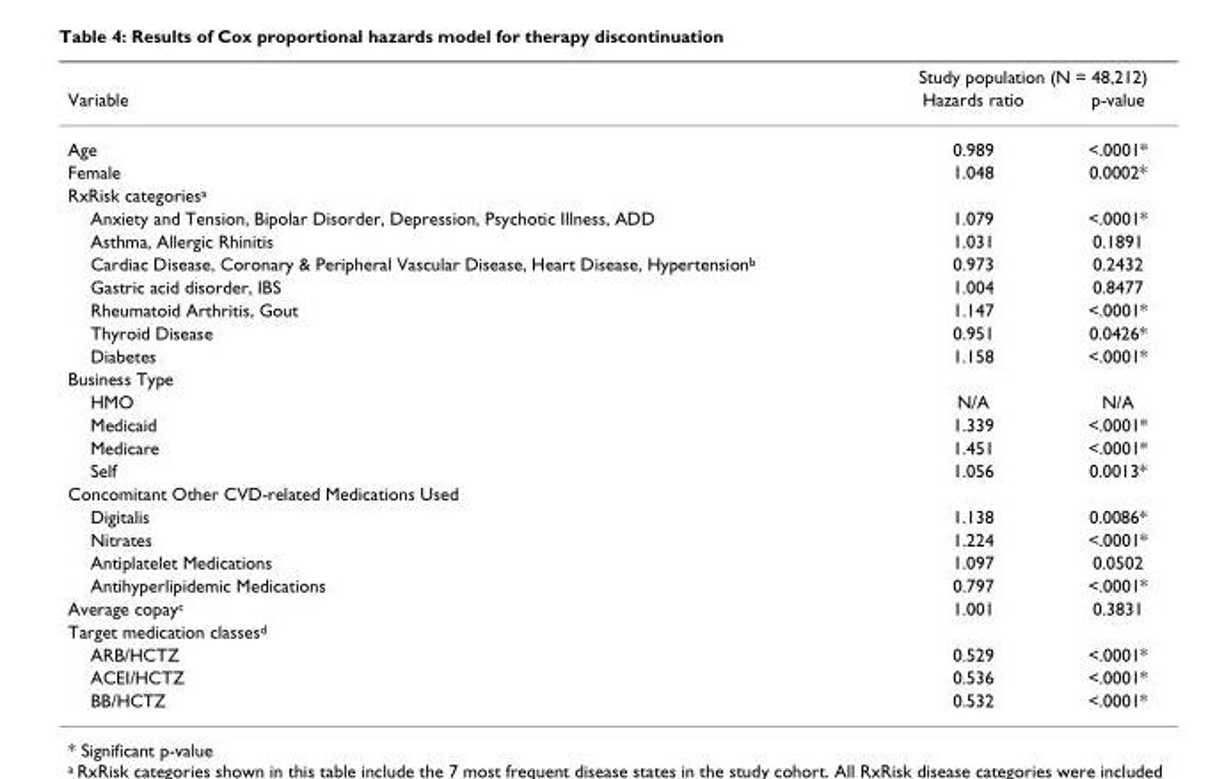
<table><thead><tr><td rowspan="2">Variable</td><td colspan="2">Study population (N = 48,212)</td></tr><tr><td>Hazards ratio</td><td>p-value</td></tr></thead><tbody><tr><td>Age</td><td>0.989</td><td>&lt;.0001*</td></tr><tr><td>Female</td><td>1.048</td><td>0.0002*</td></tr><tr><td colspan="3">RxRisk categories<sup>a</sup></td></tr><tr><td>Anxiety and Tension, Bipolar Disorder, Depression, Psychotic Illness, ADD</td><td>1.079</td><td>&lt;.0001*</td></tr><tr><td>Asthma, Allergic Rhinitis</td><td>1.031</td><td>0.1891</td></tr><tr><td>Cardiac Disease, Coronary &amp; Peripheral Vascular Disease, Heart Disease, Hypertension<sup>b</sup></td><td>0.973</td><td>0.2432</td></tr><tr><td>Gastric acid disorder, IBS</td><td>1.004</td><td>0.8477</td></tr><tr><td>Rheumatoid Arthritis, Gout</td><td>1.147</td><td>&lt;.0001*</td></tr><tr><td>Thyroid Disease</td><td>0.951</td><td>0.0426*</td></tr><tr><td>Diabetes</td><td>1.158</td><td>&lt;.0001*</td></tr><tr><td colspan="3">Business Type</td></tr><tr><td>HMO</td><td>N/A</td><td>N/A</td></tr><tr><td>Medicaid</td><td>1.339</td><td>&lt;.0001*</td></tr><tr><td>Medicare</td><td>1.451</td><td>&lt;.0001*</td></tr><tr><td>Self</td><td>1.056</td><td>0.0013*</td></tr><tr><td colspan="3">Concomitant Other CVD-related Medications Used</td></tr><tr><td>Digitalis</td><td>1.138</td><td>0.0086*</td></tr><tr><td>Nitrates</td><td>1.224</td><td>&lt;.0001*</td></tr><tr><td>Antiplatelet Medications</td><td>1.097</td><td>0.0502</td></tr><tr><td>Antihyperlipidemic Medications</td><td>0.797</td><td>&lt;.0001*</td></tr><tr><td>Average copay<sup>c</sup></td><td>1.001</td><td>0.3831</td></tr><tr><td colspan="3">Target medication classes<sup>d</sup></td></tr><tr><td>ARB/HCTZ</td><td>0.529</td><td>&lt;.0001*</td></tr><tr><td>ACEI/HCTZ</td><td>0.536</td><td>&lt;.0001*</td></tr><tr><td>BB/HCTZ</td><td>0.532</td><td>&lt;.0001*</td></tr></tbody></table>